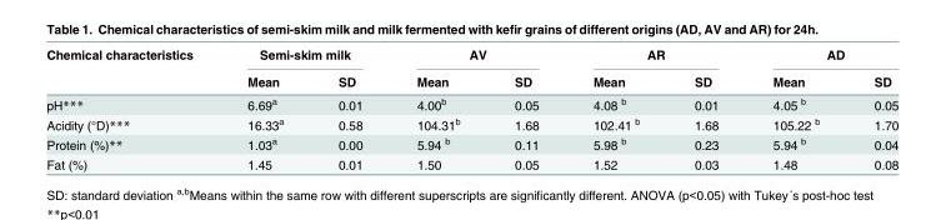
<table><thead><tr><td rowspan="2">Chemical characteristics</td><td colspan="2">Semi-skim milk</td><td colspan="2">AV</td><td colspan="2">AR</td><td colspan="2">AD</td></tr><tr><td>Mean</td><td>SD</td><td>Mean</td><td>SD</td><td>Mean</td><td>SD</td><td>Mean</td><td>SD</td></tr></thead><tbody><tr><td>pH***</td><td>6.69<sup>a</sup></td><td>0.01</td><td>4.00<sup>b</sup></td><td>0.05</td><td>4.08 <sup>b</sup></td><td>0.01</td><td>4.05 <sup>b</sup></td><td>0.05</td></tr><tr><td>Acidity (°D)***</td><td>16.33<sup>a</sup></td><td>0.58</td><td>104.31<sup>b</sup></td><td>1.68</td><td>102.41 <sup>b</sup></td><td>1.68</td><td>105.22 <sup>b</sup></td><td>1.70</td></tr><tr><td>Protein (%)**</td><td>1.03<sup>a</sup></td><td>0.00</td><td>5.94 <sup>b</sup></td><td>0.11</td><td>5.98 <sup>b</sup></td><td>0.23</td><td>5.94 <sup>b</sup></td><td>0.04</td></tr><tr><td>Fat (%)</td><td>1.45</td><td>0.01</td><td>1.50</td><td>0.05</td><td>1.52</td><td>0.03</td><td>1.48</td><td>0.08</td></tr></tbody></table>